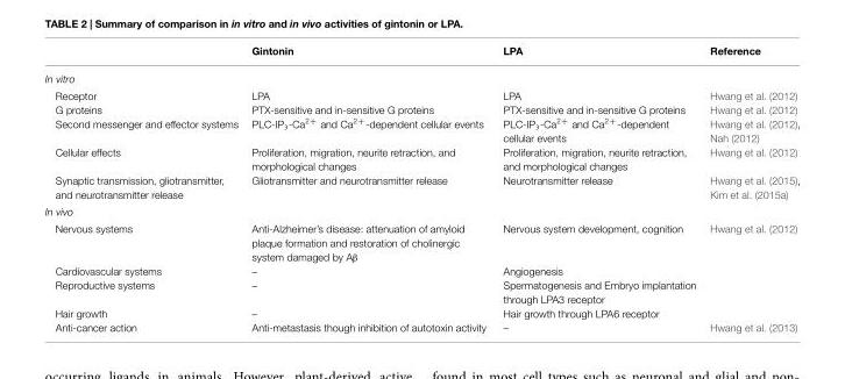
<table><thead><tr><td></td><td>Gintonin</td><td>LPA</td><td>Reference</td></tr></thead><tbody><tr><td colspan="4">In vitro</td></tr><tr><td>Receptor</td><td>LPA</td><td>LPA</td><td>Hwang et al. (2012)</td></tr><tr><td>G proteins</td><td>PTX-sensitive and in-sensitive G proteins</td><td>PTX-sensitive and in-sensitive G proteins</td><td>Hwang et al. (2012)</td></tr><tr><td>Second messenger and effector systems</td><td>PLC-IP<sub>3</sub>-Ca<sup>2+</sup> and Ca<sup>2+</sup>-dependent cellular events</td><td>PLC-IP<sub>3</sub>-Ca<sup>2+</sup> and Ca<sup>2+</sup>-dependent cellular events</td><td>Hwang et al. (2012), Nah (2012)</td></tr><tr><td>Cellular effects</td><td>Proliferation, migration, neurite retraction, and morphological changes</td><td>Proliferation, migration, neurite retraction, and morphological changes</td><td>Hwang et al. (2012)</td></tr><tr><td>Synaptic transmission, gliotransmitter, and neurotransmitter release</td><td>Gliotransmitter and neurotransmitter release</td><td>Neurotransmitter release</td><td>Hwang et al. (2015), Kim et al. (2015a)</td></tr><tr><td colspan="4">In vivo</td></tr><tr><td>Nervous systems</td><td>Anti-Alzheimer’s disease: attenuation of amyloid plaque formation and restoration of cholinergic system damaged by Aβ</td><td>Nervous system development, cognition</td><td>Hwang et al. (2012)</td></tr><tr><td>Cardiovascular systems</td><td>–</td><td>Angiogenesis</td><td></td></tr><tr><td>Reproductive systems</td><td>–</td><td>Spermatogenesis and Embryo implantation through LPA3 receptor</td><td></td></tr><tr><td>Hair growth</td><td>–</td><td>Hair growth through LPA6 receptor</td><td></td></tr><tr><td>Anti-cancer action</td><td>Anti-metastasis though inhibition of autotoxin activity</td><td>–</td><td>Hwang et al. (2013)</td></tr></tbody></table>